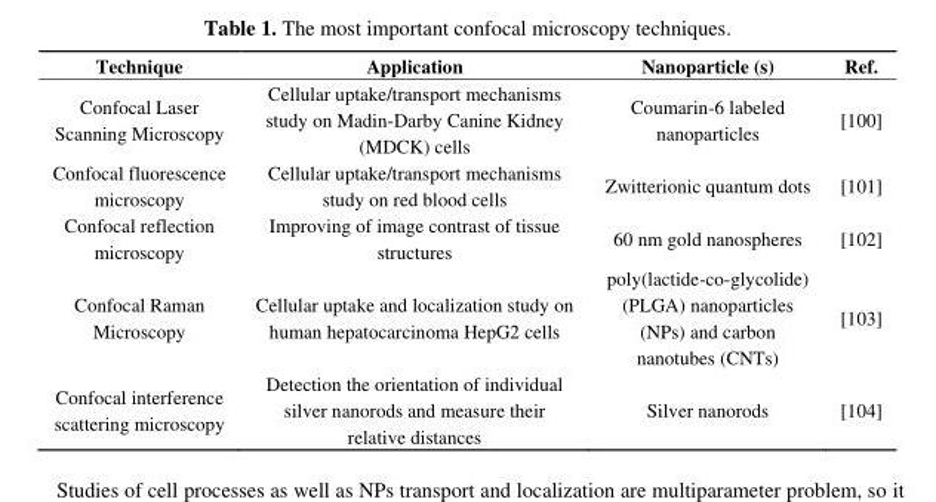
<table><thead><tr><td>Technique</td><td>Application</td><td>Nanoparticle (s)</td><td>Ref.</td></tr></thead><tbody><tr><td>Confocal Laser Scanning Microscopy</td><td>Cellular uptake/transport mechanisms study on Madin-Darby Canine Kidney (MDCK) cells</td><td>Coumarin-6 labeled nanoparticles</td><td>[100]</td></tr><tr><td>Confocal fluorescence microscopy</td><td>Cellular uptake/transport mechanisms study on red blood cells</td><td>Zwitterionic quantum dots</td><td>[101]</td></tr><tr><td>Confocal reflection microscopy</td><td>Improving of image contrast of tissue structures</td><td>60 nm gold nanospheres</td><td>[102]</td></tr><tr><td>Confocal Raman Microscopy</td><td>Cellular uptake and localization study on human hepatocarcinoma HepG2 cells</td><td>poly(lactide-co-glycolide) (PLGA) nanoparticles (NPs) and carbon nanotubes (CNTs)</td><td>[103]</td></tr><tr><td>Confocal interference scattering microscopy</td><td>Detection the orientation of individual silver nanorods and measure their relative distances</td><td>Silver nanorods</td><td>[104]</td></tr></tbody></table>